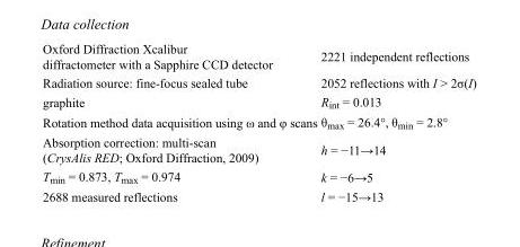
<table><tbody><tr><td>Oxford Diffraction Xcalibur diffractometer with a Sapphire CCD detector</td><td>2221 independent reflections</td></tr><tr><td>Radiation source: fine-focus sealed tube</td><td>2052 reflections with I &gt; 2σ(I)</td></tr><tr><td>graphite</td><td>R<sub>int</sub> = 0.013</td></tr><tr><td>Rotation method data acquisition using ω and φ scans</td><td>θ<sub>max</sub> = 26.4°, θ<sub>min</sub> = 2.8°</td></tr><tr><td>Absorption correction: multi-scan (CrysAlis RED; Oxford Diffraction, 2009)</td><td>h = −11→14</td></tr><tr><td>T<sub>min</sub> = 0.873, T<sub>max</sub> = 0.974</td><td>k = −6→5</td></tr><tr><td>2688 measured reflections</td><td>l = −15→13</td></tr></tbody></table>